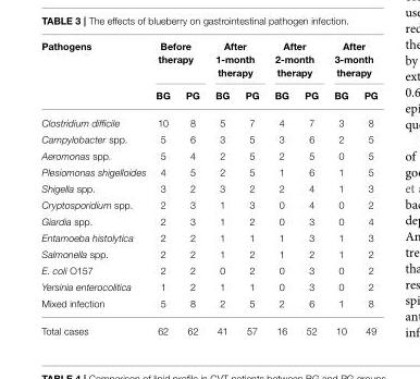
<table><thead><tr><td rowspan="2">Pathogens</td><td colspan="2">Before therapy</td><td colspan="2">After 1-month therapy</td><td colspan="2">After 2-month therapy</td><td colspan="2">After 3-month therapy</td></tr><tr><td>BG</td><td>PG</td><td>BG</td><td>PG</td><td>BG</td><td>PG</td><td>BG</td><td>PG</td></tr></thead><tbody><tr><td>Clostridium difficile</td><td>10</td><td>8</td><td>5</td><td>7</td><td>4</td><td>7</td><td>3</td><td>8</td></tr><tr><td>Campylobacter spp.</td><td>5</td><td>6</td><td>3</td><td>5</td><td>3</td><td>6</td><td>2</td><td>5</td></tr><tr><td>Aeromonas spp.</td><td>5</td><td>4</td><td>2</td><td>5</td><td>2</td><td>5</td><td>0</td><td>5</td></tr><tr><td>Plesiomonas shigelloides</td><td>4</td><td>5</td><td>2</td><td>5</td><td>1</td><td>6</td><td>1</td><td>5</td></tr><tr><td>Shigella spp.</td><td>3</td><td>2</td><td>3</td><td>2</td><td>2</td><td>4</td><td>1</td><td>3</td></tr><tr><td>Cryptosporidium spp.</td><td>2</td><td>3</td><td>1</td><td>3</td><td>0</td><td>4</td><td>0</td><td>2</td></tr><tr><td>Giardia spp.</td><td>2</td><td>3</td><td>1</td><td>2</td><td>0</td><td>3</td><td>0</td><td>4</td></tr><tr><td>Entamoeba histolytica</td><td>2</td><td>2</td><td>1</td><td>1</td><td>1</td><td>3</td><td>1</td><td>3</td></tr><tr><td>Salmonella spp.</td><td>2</td><td>2</td><td>1</td><td>2</td><td>1</td><td>2</td><td>1</td><td>2</td></tr><tr><td>E. coli O157</td><td>2</td><td>2</td><td>0</td><td>2</td><td>0</td><td>3</td><td>0</td><td>2</td></tr><tr><td>Yersinia enterocolitica</td><td>1</td><td>2</td><td>1</td><td>1</td><td>0</td><td>3</td><td>0</td><td>2</td></tr><tr><td>Mixed infection</td><td>5</td><td>8</td><td>2</td><td>5</td><td>2</td><td>6</td><td>1</td><td>8</td></tr><tr><td>Total cases</td><td>62</td><td>62</td><td>41</td><td>57</td><td>16</td><td>52</td><td>10</td><td>49</td></tr></tbody></table>